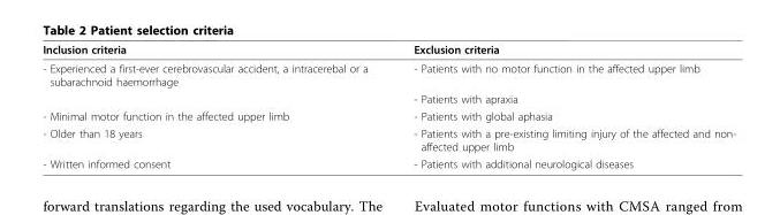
<table><thead><tr><td>Inclusion criteria</td><td>Exclusion criteria</td></tr></thead><tbody><tr><td rowspan="2">- Experienced a first-ever cerebrovascular accident, a intracerebal or a subarachnoid haemorrhage</td><td>- Patients with no motor function in the affected upper limb</td></tr><tr><td>- Patients with apraxia</td></tr><tr><td>- Minimal motor function in the affected upper limb</td><td>- Patients with global aphasia</td></tr><tr><td>- Older than 18 years</td><td>- Patients with a pre-existing limiting injury of the affected and non- affected upper limb</td></tr><tr><td>- Written informed consent</td><td>- Patients with additional neurological diseases</td></tr></tbody></table>